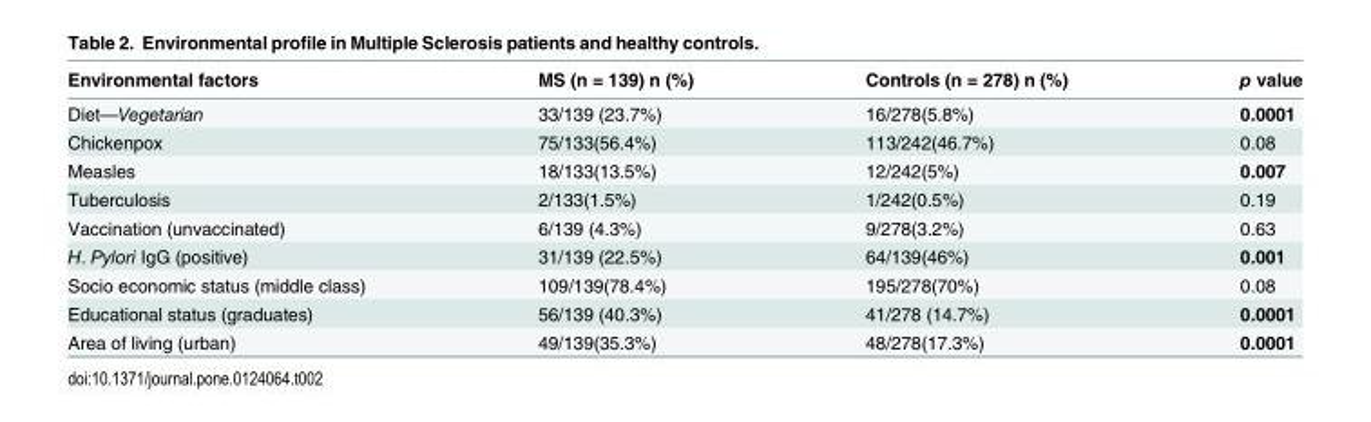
<table><thead><tr><td>Environmental factors</td><td>MS (n = 139) n (%)</td><td>Controls (n = 278) n (%)</td><td>p value</td></tr></thead><tbody><tr><td>Diet—Vegetarian</td><td>33/139 (23.7%)</td><td>16/278(5.8%)</td><td>0.0001</td></tr><tr><td>Chickenpox</td><td>75/133(56.4%)</td><td>113/242(46.7%)</td><td>0.08</td></tr><tr><td>Measles</td><td>18/133(13.5%)</td><td>12/242(5%)</td><td>0.007</td></tr><tr><td>Tuberculosis</td><td>2/133(1.5%)</td><td>1/242(0.5%)</td><td>0.19</td></tr><tr><td>Vaccination (unvaccinated)</td><td>6/139 (4.3%)</td><td>9/278(3.2%)</td><td>0.63</td></tr><tr><td>H. Pylori IgG (positive)</td><td>31/139 (22.5%)</td><td>64/139(46%)</td><td>0.001</td></tr><tr><td>Socio economic status (middle class)</td><td>109/139(78.4%)</td><td>195/278(70%)</td><td>0.08</td></tr><tr><td>Educational status (graduates)</td><td>56/139 (40.3%)</td><td>41/278 (14.7%)</td><td>0.0001</td></tr><tr><td>Area of living (urban)</td><td>49/139(35.3%)</td><td>48/278(17.3%)</td><td>0.0001</td></tr></tbody></table>